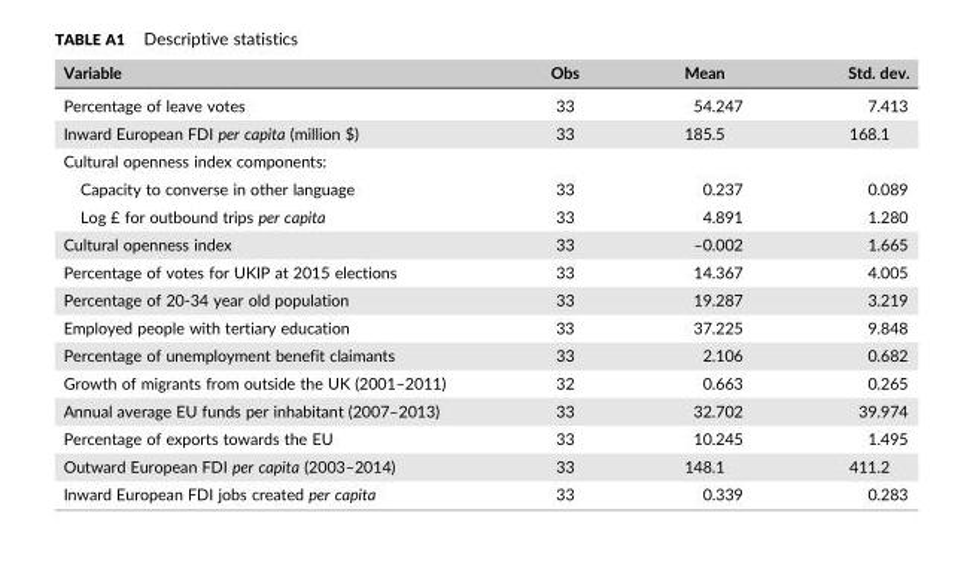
<table><thead><tr><td>Variable</td><td>Obs</td><td>Mean</td><td>Std. dev.</td></tr></thead><tbody><tr><td>Percentage of leave votes</td><td>33</td><td>54.247</td><td>7.413</td></tr><tr><td>Inward European FDI per capita (million $)</td><td>33</td><td>185.5</td><td>168.1</td></tr><tr><td colspan="4">Cultural openness index components:</td></tr><tr><td>Capacity to converse in other language</td><td>33</td><td>0.237</td><td>0.089</td></tr><tr><td>Log £ for outbound trips per capita</td><td>33</td><td>4.891</td><td>1.280</td></tr><tr><td>Cultural openness index</td><td>33</td><td>–0.002</td><td>1.665</td></tr><tr><td>Percentage of votes for UKIP at 2015 elections</td><td>33</td><td>14.367</td><td>4.005</td></tr><tr><td>Percentage of 20‐34 year old population</td><td>33</td><td>19.287</td><td>3.219</td></tr><tr><td>Employed people with tertiary education</td><td>33</td><td>37.225</td><td>9.848</td></tr><tr><td>Percentage of unemployment benefit claimants</td><td>33</td><td>2.106</td><td>0.682</td></tr><tr><td>Growth of migrants from outside the UK (2001–2011)</td><td>32</td><td>0.663</td><td>0.265</td></tr><tr><td>Annual average EU funds per inhabitant (2007–2013)</td><td>33</td><td>32.702</td><td>39.974</td></tr><tr><td>Percentage of exports towards the EU</td><td>33</td><td>10.245</td><td>1.495</td></tr><tr><td>Outward European FDI per capita (2003–2014)</td><td>33</td><td>148.1</td><td>411.2</td></tr><tr><td>Inward European FDI jobs created per capita</td><td>33</td><td>0.339</td><td>0.283</td></tr></tbody></table>